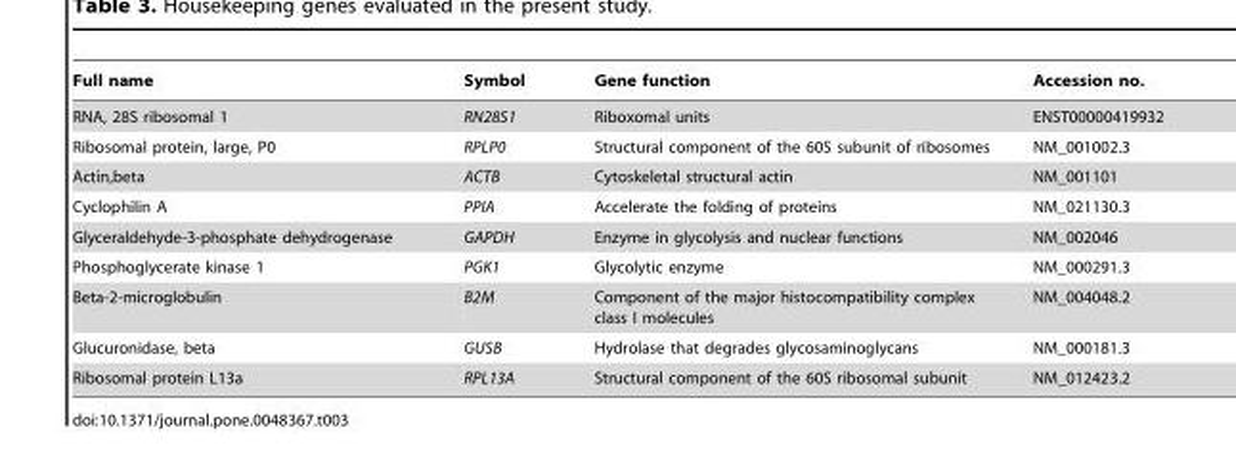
<table><thead><tr><td>Full name</td><td>Symbol</td><td>Gene function</td><td>Accession no.</td></tr></thead><tbody><tr><td>RNA, 28S ribosomal 1</td><td>RN28S1</td><td>Riboxomal units</td><td>ENST00000419932</td></tr><tr><td>Ribosomal protein, large, P0</td><td>RPLP0</td><td>Structural component of the 60S subunit of ribosomes</td><td>NM_001002.3</td></tr><tr><td>Actin,beta</td><td>ACTB</td><td>Cytoskeletal structural actin</td><td>NM_001101</td></tr><tr><td>Cyclophilin A</td><td>PPIA</td><td>Accelerate the folding of proteins</td><td>NM_021130.3</td></tr><tr><td>Glyceraldehyde-3-phosphate dehydrogenase</td><td>GAPDH</td><td>Enzyme in glycolysis and nuclear functions</td><td>NM_002046</td></tr><tr><td>Phosphoglycerate kinase 1</td><td>PGK1</td><td>Glycolytic enzyme</td><td>NM_000291.3</td></tr><tr><td>Beta-2-microglobulin</td><td>B2M</td><td>Component of the major histocompatibility complex class I molecules</td><td>NM_004048.2</td></tr><tr><td>Glucuronidase, beta</td><td>GUSB</td><td>Hydrolase that degrades glycosaminoglycans</td><td>NM_000181.3</td></tr><tr><td>Ribosomal protein L13a</td><td>RPL13A</td><td>Structural component of the 60S ribosomal subunit</td><td>NM_012423.2</td></tr></tbody></table>